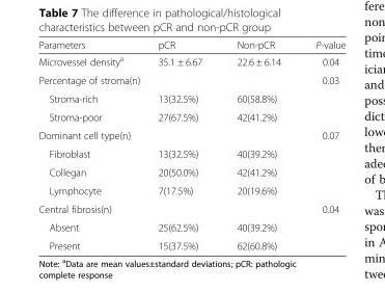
<table><thead><tr><td>Parameters</td><td>pCR</td><td>Non-pCR</td><td>P-value</td></tr></thead><tbody><tr><td>Microvessel densitya</td><td>35.1 ± 6.67</td><td>22.6 ± 6.14</td><td>0.04</td></tr><tr><td colspan="3">Percentage of stroma(n)</td><td>0.03</td></tr><tr><td>Stroma-rich</td><td>13(32.5%)</td><td>60(58.8%)</td><td></td></tr><tr><td>Stroma-poor</td><td>27(67.5%)</td><td>42(41.2%)</td><td></td></tr><tr><td colspan="3">Dominant cell type(n)</td><td>0.07</td></tr><tr><td>Fibroblast</td><td>13(32.5%)</td><td>40(39.2%)</td><td></td></tr><tr><td>Collegan</td><td>20(50.0%)</td><td>42(41.2%)</td><td></td></tr><tr><td>Lymphocyte</td><td>7(17.5%)</td><td>20(19.6%)</td><td></td></tr><tr><td colspan="3">Central fibrosis(n)</td><td>0.04</td></tr><tr><td>Absent</td><td>25(62.5%)</td><td>40(39.2%)</td><td></td></tr><tr><td>Present</td><td>15(37.5%)</td><td>62(60.8%)</td><td></td></tr></tbody></table>